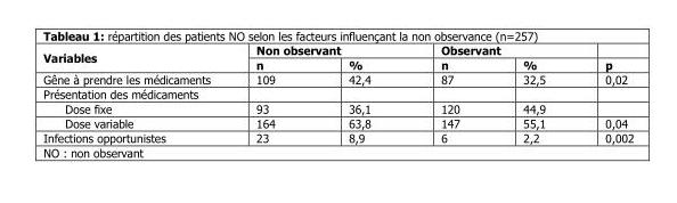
<table><thead><tr><td rowspan="2">Variables</td><td colspan="2">Non observant</td><td colspan="2">Observant</td><td rowspan="2">p</td></tr><tr><td>n</td><td>%</td><td>n</td><td>%</td></tr></thead><tbody><tr><td>Gêne à prendre les médicaments</td><td>109</td><td>42,4</td><td>87</td><td>32,5</td><td>0,02</td></tr><tr><td colspan="6">Présentation des médicaments</td></tr><tr><td>Dose fixe</td><td>93</td><td>36,1</td><td>120</td><td>44,9</td><td></td></tr><tr><td>Dose variable</td><td>164</td><td>63,8</td><td>147</td><td>55,1</td><td>0,04</td></tr><tr><td>Infections opportunistes</td><td>23</td><td>8,9</td><td>6</td><td>2,2</td><td>0,002</td></tr><tr><td>NO : non observant</td><td></td><td></td><td></td><td></td><td></td></tr></tbody></table>